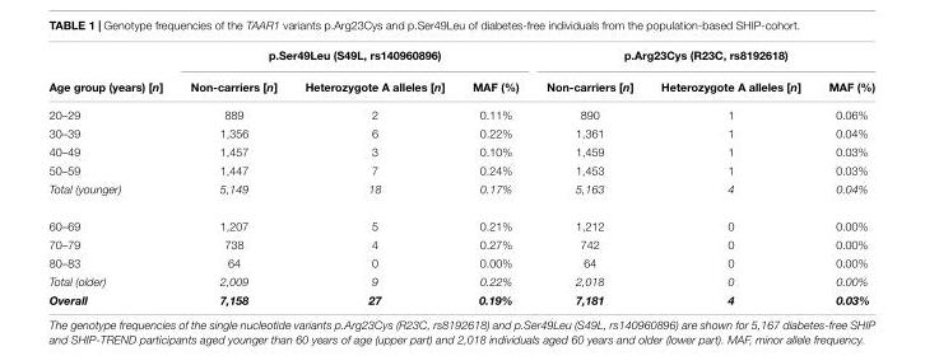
<table><thead><tr><td rowspan="2">Age group (years) [n]</td><td colspan="3">p.Ser49Leu (S49L, rs140960896)</td><td colspan="3">p.Arg23Cys (R23C, rs8192618)</td></tr><tr><td>Non-carriers [n]</td><td>Heterozygote A alleles [n]</td><td>MAF (%)</td><td>Non-carriers [n]</td><td>Heterozygote A alleles [n]</td><td>MAF (%)</td></tr></thead><tbody><tr><td>20–29</td><td>889</td><td>2</td><td>0.11%</td><td>890</td><td>1</td><td>0.06%</td></tr><tr><td>30–39</td><td>1,356</td><td>6</td><td>0.22%</td><td>1,361</td><td>1</td><td>0.04%</td></tr><tr><td>40–49</td><td>1,457</td><td>3</td><td>0.10%</td><td>1,459</td><td>1</td><td>0.03%</td></tr><tr><td>50–59</td><td>1,447</td><td>7</td><td>0.24%</td><td>1,453</td><td>1</td><td>0.03%</td></tr><tr><td>Total (younger)</td><td>5,149</td><td>18</td><td>0.17%</td><td>5,163</td><td>4</td><td>0.04%</td></tr><tr><td>60–69</td><td>1,207</td><td>5</td><td>0.21%</td><td>1,212</td><td>0</td><td>0.00%</td></tr><tr><td>70–79</td><td>738</td><td>4</td><td>0.27%</td><td>742</td><td>0</td><td>0.00%</td></tr><tr><td>80–83</td><td>64</td><td>0</td><td>0.00%</td><td>64</td><td>0</td><td>0.00%</td></tr><tr><td>Total (older)</td><td>2,009</td><td>9</td><td>0.22%</td><td>2,018</td><td>0</td><td>0.00%</td></tr><tr><td>Overall</td><td>7,158</td><td>27</td><td>0.19%</td><td>7,181</td><td>4</td><td>0.03%</td></tr></tbody></table>